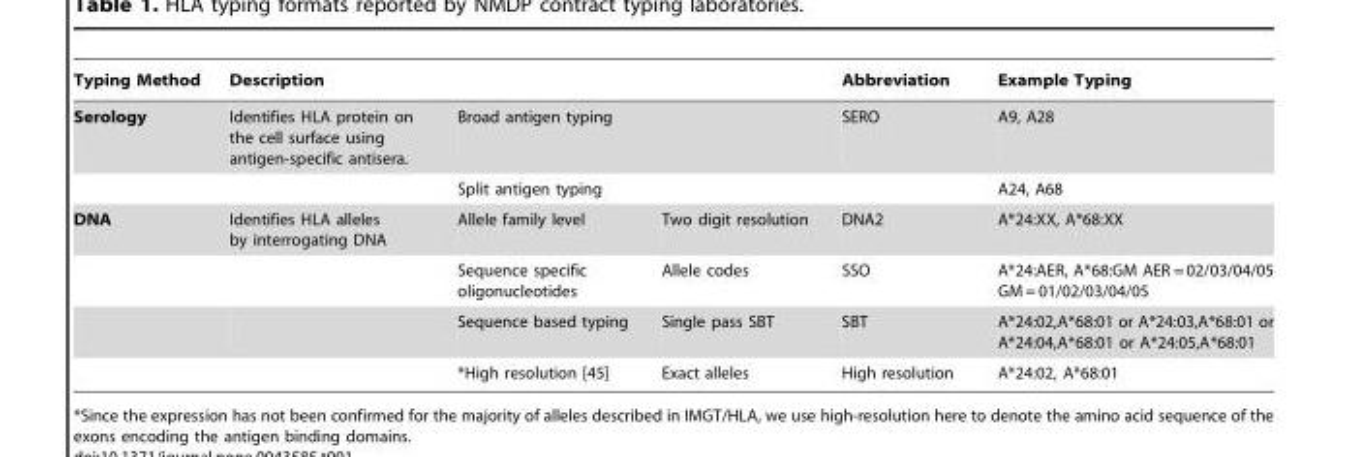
<table><thead><tr><td rowspan="4">Typing Method Serology DNA</td><td colspan="3">Description</td><td rowspan="4">Abbreviation SERO DNA2</td><td rowspan="4">Example Typing A9, A28 A24, A68 A*24:XX, A*68:XX</td></tr><tr><td rowspan="3">Identifies HLA protein on the cell surface using antigen-specific antisera. Identifies HLA alleles by interrogating DNA</td><td rowspan="2" colspan="2">Broad antigen typing Split antigen typing</td></tr><tr></tr><tr><td>Allele family level</td><td>Two digit resolution</td></tr></thead><tbody><tr><td></td><td></td><td>Sequence specific oligonucleotides</td><td>Allele codes</td><td>SSO</td><td>A*24:AER, A*68:GM AER = 02/03/04/05 GM = 01/02/03/04/05</td></tr><tr><td></td><td></td><td>Sequence based typing</td><td>Single pass SBT</td><td>SBT</td><td>A*24:02,A*68:01 or A*24:03,A*68:01 or A*24:04,A*68:01 or A*24:05,A*68:01</td></tr><tr><td></td><td></td><td>*High resolution [45]</td><td>Exact alleles</td><td>High resolution</td><td>A*24:02, A*68:01</td></tr></tbody></table>